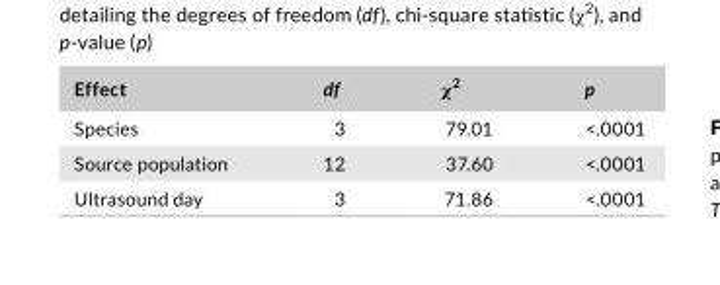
<table><thead><tr><td>Effect</td><td>df</td><td>χ<sup>2</sup></td><td>p</td></tr></thead><tbody><tr><td>Species</td><td>3</td><td>79.01</td><td>&lt;.0001</td></tr><tr><td>Source population</td><td>12</td><td>37.60</td><td>&lt;.0001</td></tr><tr><td>Ultrasound day</td><td>3</td><td>71.86</td><td>&lt;.0001</td></tr></tbody></table>